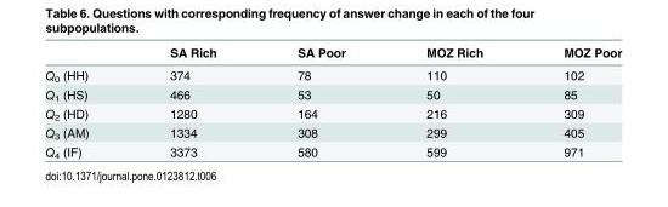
<table><thead><tr><td></td><td>SA Rich</td><td>SA Poor</td><td>MOZ Rich</td><td>MOZ Poor</td></tr></thead><tbody><tr><td>Q<sub>0</sub> (HH)</td><td>374</td><td>78</td><td>110</td><td>102</td></tr><tr><td>Q<sub>1</sub> (HS)</td><td>466</td><td>53</td><td>50</td><td>85</td></tr><tr><td>Q<sub>2</sub> (HD)</td><td>1280</td><td>164</td><td>216</td><td>309</td></tr><tr><td>Q<sub>3</sub> (AM)</td><td>1334</td><td>308</td><td>299</td><td>405</td></tr><tr><td>Q<sub>4</sub> (IF)</td><td>3373</td><td>580</td><td>599</td><td>971</td></tr></tbody></table>